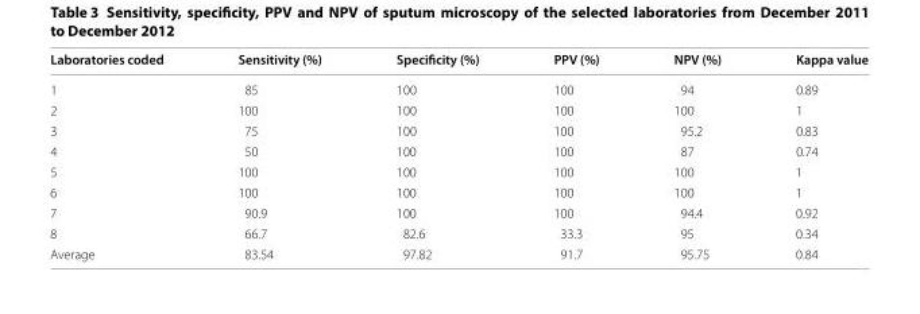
<table><thead><tr><td>Laboratories coded</td><td>Sensitivity (%)</td><td>Specificity (%)</td><td>PPV (%)</td><td>NPV (%)</td><td>Kappa value</td></tr></thead><tbody><tr><td>1</td><td>85</td><td>100</td><td>100</td><td>94</td><td>0.89</td></tr><tr><td>2</td><td>100</td><td>100</td><td>100</td><td>100</td><td>1</td></tr><tr><td>3</td><td>75</td><td>100</td><td>100</td><td>95.2</td><td>0.83</td></tr><tr><td>4</td><td>50</td><td>100</td><td>100</td><td>87</td><td>0.74</td></tr><tr><td>5</td><td>100</td><td>100</td><td>100</td><td>100</td><td>1</td></tr><tr><td>6</td><td>100</td><td>100</td><td>100</td><td>100</td><td>1</td></tr><tr><td>7</td><td>90.9</td><td>100</td><td>100</td><td>94.4</td><td>0.92</td></tr><tr><td>8</td><td>66.7</td><td>82.6</td><td>33.3</td><td>95</td><td>0.34</td></tr><tr><td>Average</td><td>83.54</td><td>97.82</td><td>91.7</td><td>95.75</td><td>0.84</td></tr></tbody></table>